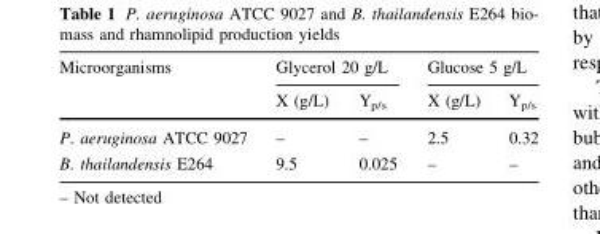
<table><thead><tr><td rowspan="2">Microorganisms</td><td colspan="2">Glycerol 20 g/L</td><td colspan="2">Glucose 5 g/L</td></tr><tr><td>X (g/L)</td><td>Y<sub>p/s</sub></td><td>X (g/L)</td><td>Y<sub>p/s</sub></td></tr></thead><tbody><tr><td>P. aeruginosa ATCC 9027</td><td>–</td><td>–</td><td>2.5</td><td>0.32</td></tr><tr><td>B. thailandensis E264</td><td>9.5</td><td>0.025</td><td>–</td><td>–</td></tr></tbody></table>